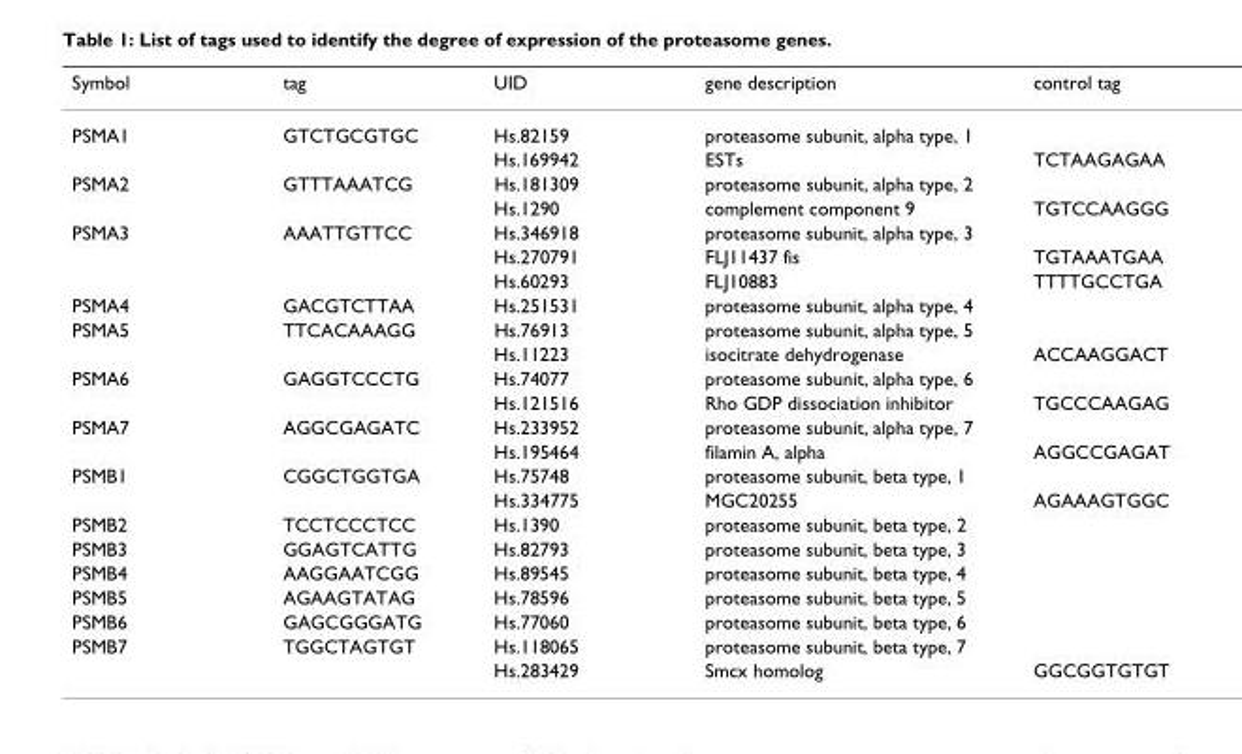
<table><thead><tr><td>Symbol</td><td>tag</td><td>UID</td><td>gene description</td><td>control tag</td></tr></thead><tbody><tr><td rowspan="2">PSMA1</td><td>GTCTGCGTGC</td><td>Hs.82159</td><td>proteasome subunit, alpha type, 1</td><td></td></tr><tr><td></td><td>Hs.169942</td><td>ESTs</td><td>TCTAAGAGAA</td></tr><tr><td rowspan="2">PSMA2</td><td>GTTTAAATCG</td><td>Hs.181309</td><td>proteasome subunit, alpha type, 2</td><td></td></tr><tr><td></td><td>Hs.1290</td><td>complement component 9</td><td>TGTCCAAGGG</td></tr><tr><td rowspan="3">PSMA3</td><td>AAATTGTTCC</td><td>Hs.346918</td><td>proteasome subunit, alpha type, 3</td><td></td></tr><tr><td></td><td>Hs.270791</td><td>FLJ11437 fis</td><td>TGTAAATGAA</td></tr><tr><td></td><td>Hs.60293</td><td>FLJ10883</td><td>TTTTGCCTGA</td></tr><tr><td>PSMA4</td><td>GACGTCTTAA</td><td>Hs.251531</td><td>proteasome subunit, alpha type, 4</td><td></td></tr><tr><td rowspan="2">PSMA5</td><td>TTCACAAAGG</td><td>Hs.76913</td><td>proteasome subunit, alpha type, 5</td><td></td></tr><tr><td></td><td>Hs.11223</td><td>isocitrate dehydrogenase</td><td>ACCAAGGACT</td></tr><tr><td rowspan="2">PSMA6</td><td>GAGGTCCCTG</td><td>Hs.74077</td><td>proteasome subunit, alpha type, 6</td><td></td></tr><tr><td></td><td>Hs.121516</td><td>Rho GDP dissociation inhibitor</td><td>TGCCCAAGAG</td></tr><tr><td rowspan="2">PSMA7</td><td>AGGCGAGATC</td><td>Hs.233952</td><td>proteasome subunit, alpha type, 7</td><td></td></tr><tr><td></td><td>Hs.195464</td><td>filamin A, alpha</td><td>AGGCCGAGAT</td></tr><tr><td rowspan="2">PSMB1</td><td>CGGCTGGTGA</td><td>Hs.75748</td><td>proteasome subunit, beta type, 1</td><td></td></tr><tr><td></td><td>Hs.334775</td><td>MGC20255</td><td>AGAAAGTGGC</td></tr><tr><td>PSMB2</td><td>TCCTCCCTCC</td><td>Hs.1390</td><td>proteasome subunit, beta type, 2</td><td></td></tr><tr><td>PSMB3</td><td>GGAGTCATTG</td><td>Hs.82793</td><td>proteasome subunit, beta type, 3</td><td></td></tr><tr><td>PSMB4</td><td>AAGGAATCGG</td><td>Hs.89545</td><td>proteasome subunit, beta type, 4</td><td></td></tr><tr><td>PSMB5</td><td>AGAAGTATAG</td><td>Hs.78596</td><td>proteasome subunit, beta type, 5</td><td></td></tr><tr><td>PSMB6</td><td>GAGCGGGATG</td><td>Hs.77060</td><td>proteasome subunit, beta type, 6</td><td></td></tr><tr><td rowspan="2">PSMB7</td><td>TGGCTAGTGT</td><td>Hs.118065</td><td>proteasome subunit, beta type, 7</td><td></td></tr><tr><td></td><td>Hs.283429</td><td>Smcx homolog</td><td>GGCGGTGTGT</td></tr></tbody></table>